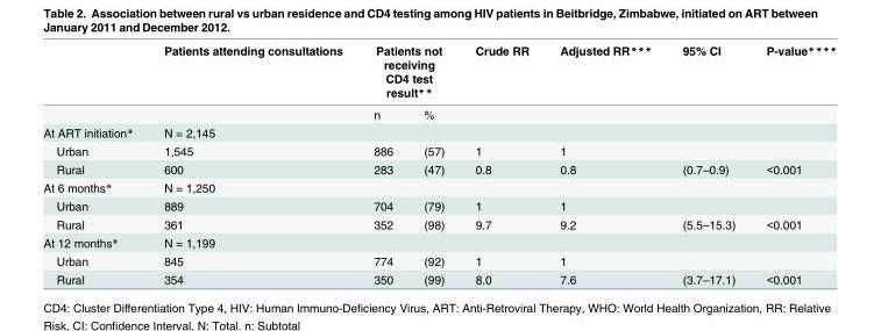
<table><thead><tr><td rowspan="2"></td><td rowspan="2">Patients attending consultations</td><td colspan="2">Patients not receiving CD4 test result**</td><td rowspan="2">Crude RR</td><td rowspan="2">Adjusted RR***</td><td rowspan="2">95% CI</td><td rowspan="2">P-value****</td></tr><tr><td>n</td><td>%</td></tr></thead><tbody><tr><td>At ART initiation*</td><td>N = 2,145</td><td></td><td></td><td></td><td></td><td></td><td></td></tr><tr><td>Urban</td><td>1,545</td><td>886</td><td>(57)</td><td>1</td><td>1</td><td></td><td></td></tr><tr><td>Rural</td><td>600</td><td>283</td><td>(47)</td><td>0.8</td><td>0.8</td><td>(0.7–0.9)</td><td>&lt;0.001</td></tr><tr><td>At 6 months*</td><td>N = 1,250</td><td></td><td></td><td></td><td></td><td></td><td></td></tr><tr><td>Urban</td><td>889</td><td>704</td><td>(79)</td><td>1</td><td>1</td><td></td><td></td></tr><tr><td>Rural</td><td>361</td><td>352</td><td>(98)</td><td>9.7</td><td>9.2</td><td>(5.5–15.3)</td><td>&lt;0.001</td></tr><tr><td>At 12 months*</td><td>N = 1,199</td><td></td><td></td><td></td><td></td><td></td><td></td></tr><tr><td>Urban</td><td>845</td><td>774</td><td>(92)</td><td>1</td><td>1</td><td></td><td></td></tr><tr><td>Rural</td><td>354</td><td>350</td><td>(99)</td><td>8.0</td><td>7.6</td><td>(3.7–17.1)</td><td>&lt;0.001</td></tr></tbody></table>